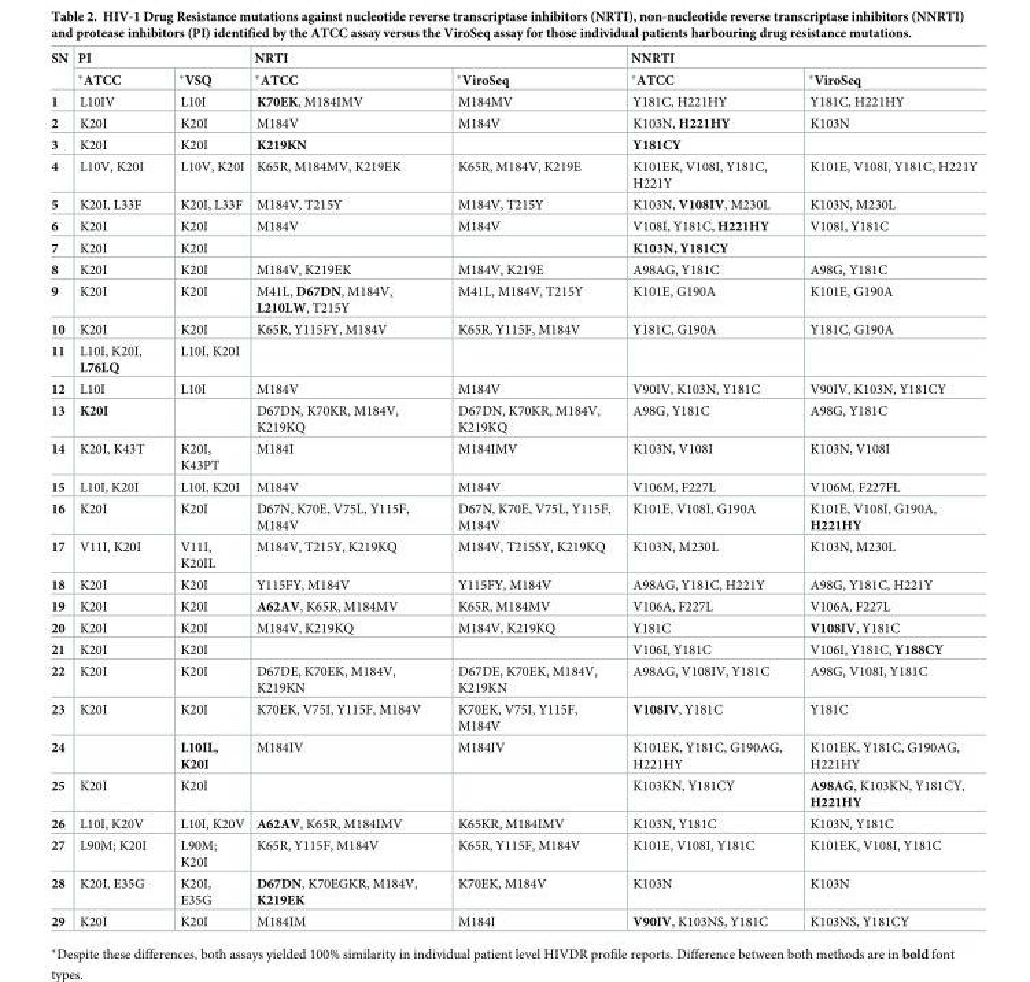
<table><thead><tr><td rowspan="2">SN</td><td colspan="2">PI</td><td colspan="2">NRTI</td><td colspan="2">NNRTI</td></tr><tr><td>*ATCC</td><td>*VSQ</td><td>*ATCC</td><td>*ViroSeq</td><td>*ATCC</td><td>*ViroSeq</td></tr></thead><tbody><tr><td>1</td><td>L10IV</td><td>L10I</td><td>K70EK, M184IMV</td><td>M184MV</td><td>Y181C, H221HY</td><td>Y181C, H221HY</td></tr><tr><td>2</td><td>K20I</td><td>K20I</td><td>M184V</td><td>M184V</td><td>K103N, H221HY</td><td>K103N</td></tr><tr><td>3</td><td>K20I</td><td>K20I</td><td>K219KN</td><td></td><td>Y181CY</td><td></td></tr><tr><td>4</td><td>L10V, K20I</td><td>L10V, K20I</td><td>K65R, M184MV, K219EK</td><td>K65R, M184V, K219E</td><td>K101EK, V108I, Y181C, H221Y</td><td>K101E, V108I, Y181C, H221Y</td></tr><tr><td>5</td><td>K20I, L33F</td><td>K20I, L33F</td><td>M184V, T215Y</td><td>M184V, T215Y</td><td>K103N, V108IV, M230L</td><td>K103N, M230L</td></tr><tr><td>6</td><td>K20I</td><td>K20I</td><td>M184V</td><td>M184V</td><td>V108I, Y181C, H221HY</td><td>V108I, Y181C</td></tr><tr><td>7</td><td>K20I</td><td>K20I</td><td></td><td></td><td>K103N, Y181CY</td><td></td></tr><tr><td>8</td><td>K20I</td><td>K20I</td><td>M184V, K219EK</td><td>M184V, K219E</td><td>A98AG, Y181C</td><td>A98G, Y181C</td></tr><tr><td>9</td><td>K20I</td><td>K20I</td><td>M41L, D67DN, M184V, L210LW, T215Y</td><td>M41L, M184V, T215Y</td><td>K101E, G190A</td><td>K101E, G190A</td></tr><tr><td>10</td><td>K20I</td><td>K20I</td><td>K65R, Y115FY, M184V</td><td>K65R, Y115F, M184V</td><td>Y181C, G190A</td><td>Y181C, G190A</td></tr><tr><td>11</td><td>L10I, K20I, L76LQ</td><td>L10I, K20I</td><td></td><td></td><td></td><td></td></tr><tr><td>12</td><td>L10I</td><td>L10I</td><td>M184V</td><td>M184V</td><td>V90IV, K103N, Y181C</td><td>V90IV, K103N, Y181CY</td></tr><tr><td>13</td><td>K20I</td><td></td><td>D67DN, K70KR, M184V, K219KQ</td><td>D67DN, K70KR, M184V, K219KQ</td><td>A98G, Y181C</td><td>A98G, Y181C</td></tr><tr><td>14</td><td>K20I, K43T</td><td>K20I, K43PT</td><td>M184I</td><td>M184IMV</td><td>K103N, V108I</td><td>K103N, V108I</td></tr><tr><td>15</td><td>L10I, K20I</td><td>L10I, K20I</td><td>M184V</td><td>M184V</td><td>V106M, F227L</td><td>V106M, F227FL</td></tr><tr><td>16</td><td>K20I</td><td>K20I</td><td>D67N, K70E, V75L, Y115F, M184V</td><td>D67N, K70E, V75L, Y115F, M184V</td><td>K101E, V108I, G190A</td><td>K101E, V108I, G190A, H221HY</td></tr><tr><td>17</td><td>V11I, K20I</td><td>V11I, K20IL</td><td>M184V, T215Y, K219KQ</td><td>M184V, T215SY, K219KQ</td><td>K103N, M230L</td><td>K103N, M230L</td></tr><tr><td>18</td><td>K20I</td><td>K20I</td><td>Y115FY, M184V</td><td>Y115FY, M184V</td><td>A98AG, Y181C, H221Y</td><td>A98G, Y181C, H221Y</td></tr><tr><td>19</td><td>K20I</td><td>K20I</td><td>A62AV, K65R, M184MV</td><td>K65R, M184MV</td><td>V106A, F227L</td><td>V106A, F227L</td></tr><tr><td>20</td><td>K20I</td><td>K20I</td><td>M184V, K219KQ</td><td>M184V, K219KQ</td><td>Y181C</td><td>V108IV, Y181C</td></tr><tr><td>21</td><td>K20I</td><td>K20I</td><td></td><td></td><td>V106I, Y181C</td><td>V106I, Y181C, Y188CY</td></tr><tr><td>22</td><td>K20I</td><td>K20I</td><td>D67DE, K70EK, M184V, K219KN</td><td>D67DE, K70EK, M184V, K219KN</td><td>A98AG, V108IV, Y181C</td><td>A98G, V108I, Y181C</td></tr><tr><td>23</td><td>K20I</td><td>K20I</td><td>K70EK, V75I, Y115F, M184V</td><td>K70EK, V75I, Y115F, M184V</td><td>V108IV, Y181C</td><td>Y181C</td></tr><tr><td>24</td><td></td><td>L10IL, K20I</td><td>M184IV</td><td>M184IV</td><td>K101EK, Y181C, G190AG, H221HY</td><td>K101EK, Y181C, G190AG, H221HY</td></tr><tr><td>25</td><td>K20I</td><td>K20I</td><td></td><td></td><td>K103KN, Y181CY</td><td>A98AG, K103KN, Y181CY, H221HY</td></tr><tr><td>26</td><td>L10I, K20V</td><td>L10I, K20V</td><td>A62AV, K65R, M184IMV</td><td>K65KR, M184IMV</td><td>K103N, Y181C</td><td>K103N, Y181C</td></tr><tr><td>27</td><td>L90M; K20I</td><td>L90M; K20I</td><td>K65R, Y115F, M184V</td><td>K65R, Y115F, M184V</td><td>K101E, V108I, Y181C</td><td>K101EK, V108I, Y181C</td></tr><tr><td>28</td><td>K20I, E35G</td><td>K20I, E35G</td><td>D67DN, K70EGKR, M184V, K219EK</td><td>K70EK, M184V</td><td>K103N</td><td>K103N</td></tr><tr><td>29</td><td>K20I</td><td>K20I</td><td>M184IM</td><td>M184I</td><td>V90IV, K103NS, Y181C</td><td>K103NS, Y181CY</td></tr></tbody></table>